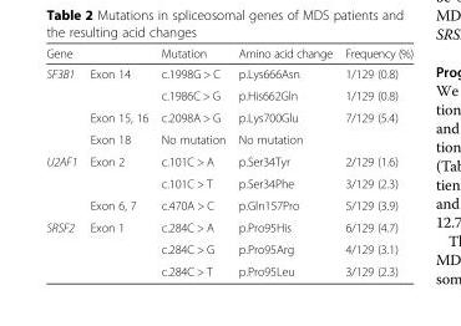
<table><thead><tr><td>Gene</td><td></td><td>Mutation</td><td>Amino acid change</td><td>Frequency (%)</td></tr></thead><tbody><tr><td rowspan="4">SF3B1</td><td>Exon 14</td><td>c.1998G &gt; C</td><td>p.Lys666Asn</td><td>1/129 (0.8)</td></tr><tr><td></td><td>c.1986C &gt; G</td><td>p.His662Gln</td><td>1/129 (0.8)</td></tr><tr><td>Exon 15, 16</td><td>c.2098A &gt; G</td><td>p.Lys700Glu</td><td>7/129 (5.4)</td></tr><tr><td>Exon 18</td><td>No mutation</td><td>No mutation</td><td></td></tr><tr><td rowspan="3">U2AF1</td><td>Exon 2</td><td>c.101C &gt; A</td><td>p.Ser34Tyr</td><td>2/129 (1.6)</td></tr><tr><td></td><td>c.101C &gt; T</td><td>p.Ser34Phe</td><td>3/129 (2.3)</td></tr><tr><td>Exon 6, 7</td><td>c.470A &gt; C</td><td>p.Gln157Pro</td><td>5/129 (3.9)</td></tr><tr><td rowspan="3">SRSF2</td><td>Exon 1</td><td>c.284C &gt; A</td><td>p.Pro95His</td><td>6/129 (4.7)</td></tr><tr><td></td><td>c.284C &gt; G</td><td>p.Pro95Arg</td><td>4/129 (3.1)</td></tr><tr><td></td><td>c.284C &gt; T</td><td>p.Pro95Leu</td><td>3/129 (2.3)</td></tr></tbody></table>